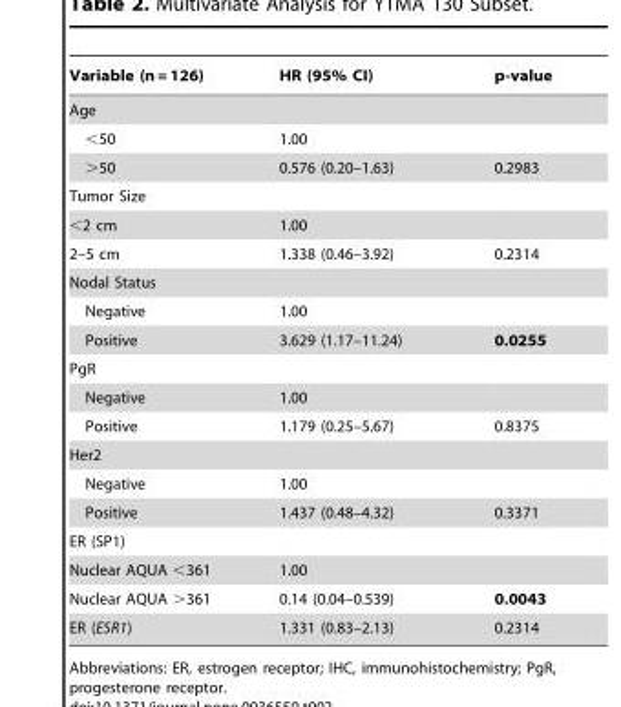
<table><thead><tr><td>Variable (n = 126)</td><td>HR (95% CI)</td><td>p-value</td></tr></thead><tbody><tr><td colspan="3">Age</td></tr><tr><td>&lt;50</td><td>1.00</td><td></td></tr><tr><td>&gt;50</td><td>0.576 (0.20–1.63)</td><td>0.2983</td></tr><tr><td colspan="3">Tumor Size</td></tr><tr><td>&lt;2 cm</td><td>1.00</td><td></td></tr><tr><td>2–5 cm</td><td>1.338 (0.46–3.92)</td><td>0.2314</td></tr><tr><td colspan="3">Nodal Status</td></tr><tr><td>Negative</td><td>1.00</td><td></td></tr><tr><td>Positive</td><td>3.629 (1.17–11.24)</td><td>0.0255</td></tr><tr><td colspan="3">PgR</td></tr><tr><td>Negative</td><td>1.00</td><td></td></tr><tr><td>Positive</td><td>1.179 (0.25–5.67)</td><td>0.8375</td></tr><tr><td colspan="3">Her2</td></tr><tr><td>Negative</td><td>1.00</td><td></td></tr><tr><td>Positive</td><td>1.437 (0.48–4.32)</td><td>0.3371</td></tr><tr><td colspan="3">ER (SP1)</td></tr><tr><td>Nuclear AQUA &lt;361</td><td colspan="2">1.00</td></tr><tr><td>Nuclear AQUA &gt;361</td><td>0.14 (0.04–0.539)</td><td>0.0043</td></tr><tr><td>ER (ESR1)</td><td>1.331 (0.83–2.13)</td><td>0.2314</td></tr></tbody></table>